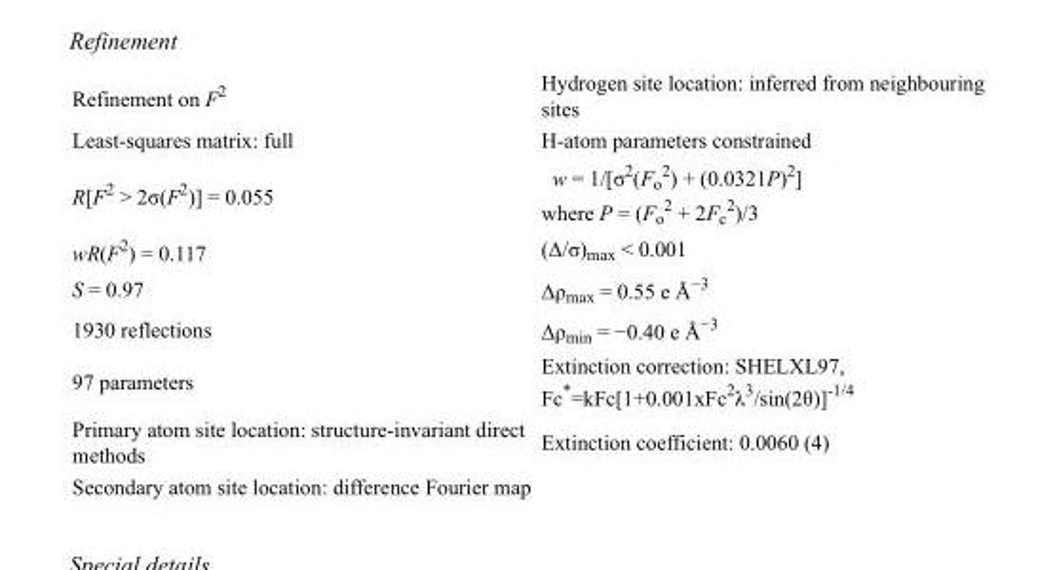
<table><tbody><tr><td>Refinement on F<sup>2</sup></td><td>Hydrogen site location: inferred from neighbouring sites</td></tr><tr><td>Least-squares matrix: full</td><td>H-atom parameters constrained</td></tr><tr><td>R[F<sup>2</sup> &gt; 2σ(F<sup>2</sup>)] = 0.055</td><td>w = 1/[σ<sup>2</sup>(F<sub>o</sub> <sup>2</sup>) + (0.0321P)<sup>2</sup>] where P = (F<sub>o</sub> <sup>2</sup> + 2F<sub>c</sub> <sup>2</sup>)/3</td></tr><tr><td>wR(F<sup>2</sup>) = 0.117</td><td>(Δ/σ)<sub>max</sub> &lt; 0.001</td></tr><tr><td>S = 0.97</td><td>Δρ<sub>max</sub> = 0.55 e Å<sup>−3</sup></td></tr><tr><td>1930 reflections</td><td>Δρ<sub>min</sub> = −0.40 e Å<sup>−3</sup></td></tr><tr><td>97 parameters</td><td>Extinction correction: SHELXL97, Fc*=kFc[1+0.001xFc<sup>2</sup>λ<sup>3</sup>/sin(2θ)]<sup>-1/4</sup></td></tr><tr><td>Primary atom site location: structure-invariant direct methods</td><td>Extinction coefficient: 0.0060 (4)</td></tr><tr><td>Secondary atom site location: difference Fourier map</td><td></td></tr></tbody></table>